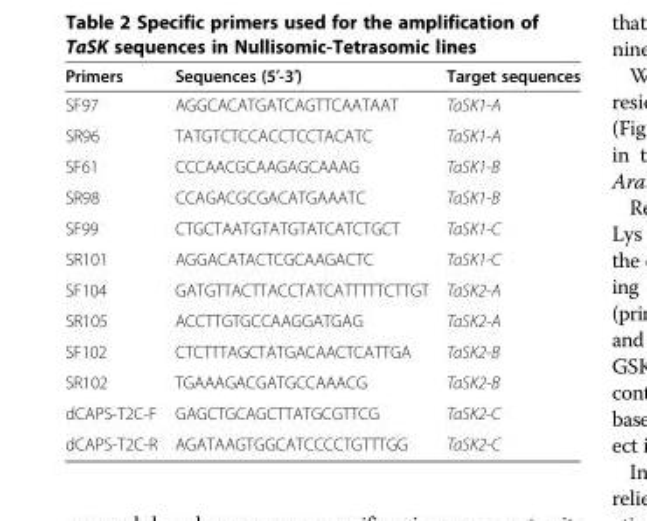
<table><thead><tr><td>Primers</td><td>Sequences (5′-3′)</td><td>Target sequences</td></tr></thead><tbody><tr><td>SF97</td><td>AGGCACATGATCAGTTCAATAAT</td><td>TaSK1-A</td></tr><tr><td>SR96</td><td>TATGTCTCCACCTCCTACATC</td><td>TaSK1-A</td></tr><tr><td>SF61</td><td>CCCAACGCAAGAGCAAAG</td><td>TaSK1-B</td></tr><tr><td>SR98</td><td>CCAGACGCGACATGAAATC</td><td>TaSK1-B</td></tr><tr><td>SF99</td><td>CTGCTAATGTATGTATCATCTGCT</td><td>TaSK1-C</td></tr><tr><td>SR101</td><td>AGGACATACTCGCAAGACTC</td><td>TaSK1-C</td></tr><tr><td>SF104</td><td>GATGTTACTTACCTATCATTTTTCTTGT</td><td>TaSK2-A</td></tr><tr><td>SR105</td><td>ACCTTGTGCCAAGGATGAG</td><td>TaSK2-A</td></tr><tr><td>SF102</td><td>CTCTTTAGCTATGACAACTCATTGA</td><td>TaSK2-B</td></tr><tr><td>SR102</td><td>TGAAAGACGATGCCAAACG</td><td>TaSK2-B</td></tr><tr><td>dCAPS-T2C-F</td><td>GAGCTGCAGCTTATGCGTTCG</td><td>TaSK2-C</td></tr><tr><td>dCAPS-T2C-R</td><td>AGATAAGTGGCATCCCCTGTTTGG</td><td>TaSK2-C</td></tr></tbody></table>